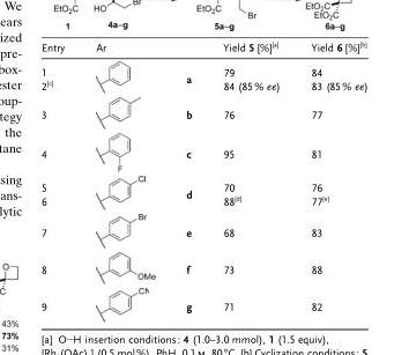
<table><thead><tr><td>Entry</td><td>Ar</td><td></td><td>Yield 5 [%][a]</td><td>Yield 6 [%][b]</td></tr></thead><tbody><tr><td>1 2[c]</td><td></td><td>a</td><td>79 84 (85% ee)</td><td>84 83 (85% ee)</td></tr><tr><td>3</td><td></td><td>b</td><td>76</td><td>77</td></tr><tr><td>4</td><td></td><td>c</td><td>95</td><td>81</td></tr><tr><td>5 6</td><td></td><td>d</td><td>70 88[d]</td><td>76 77[e]</td></tr><tr><td>7</td><td></td><td>e</td><td>68</td><td>83</td></tr><tr><td>8</td><td></td><td>f</td><td>73</td><td>88</td></tr><tr><td>9</td><td></td><td>g</td><td>71</td><td>82</td></tr></tbody></table>